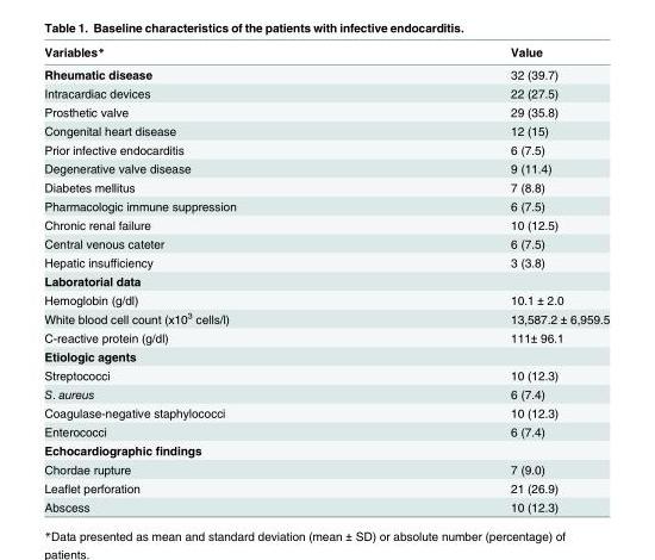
<table><thead><tr><td>Variables*</td><td>Value</td></tr></thead><tbody><tr><td>Rheumatic disease</td><td>32 (39.7)</td></tr><tr><td>Intracardiac devices</td><td>22 (27.5)</td></tr><tr><td>Prosthetic valve</td><td>29 (35.8)</td></tr><tr><td>Congenital heart disease</td><td>12 (15)</td></tr><tr><td>Prior infective endocarditis</td><td>6 (7.5)</td></tr><tr><td>Degenerative valve disease</td><td>9 (11.4)</td></tr><tr><td>Diabetes mellitus</td><td>7 (8.8)</td></tr><tr><td>Pharmacologic immune suppression</td><td>6 (7.5)</td></tr><tr><td>Chronic renal failure</td><td>10 (12.5)</td></tr><tr><td>Central venous cateter</td><td>6 (7.5)</td></tr><tr><td>Hepatic insufficiency</td><td>3 (3.8)</td></tr><tr><td colspan="2">Laboratorial data</td></tr><tr><td>Hemoglobin (g/dl)</td><td>10.1 ± 2.0</td></tr><tr><td>White blood cell count (x10<sup>3</sup> cells/l)</td><td>13,587.2 ± 6,959.5</td></tr><tr><td>C-reactive protein (g/dl)</td><td>111± 96.1</td></tr><tr><td colspan="2">Etiologic agents</td></tr><tr><td>Streptococci</td><td>10 (12.3)</td></tr><tr><td>S. aureus</td><td>6 (7.4)</td></tr><tr><td>Coagulase-negative staphylococci</td><td>10 (12.3)</td></tr><tr><td>Enterococci</td><td>6 (7.4)</td></tr><tr><td colspan="2">Echocardiographic findings</td></tr><tr><td>Chordae rupture</td><td>7 (9.0)</td></tr><tr><td>Leaflet perforation</td><td>21 (26.9)</td></tr><tr><td>Abscess</td><td>10 (12.3)</td></tr></tbody></table>